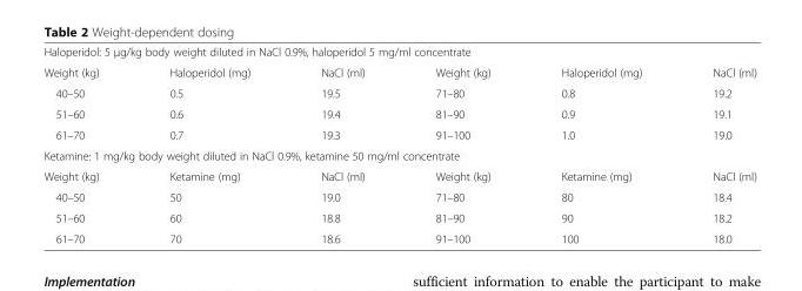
<table><tbody><tr><td colspan="6">Haloperidol: 5 μg/kg body weight diluted in NaCl 0.9%, haloperidol 5 mg/ml concentrate</td></tr><tr><td>Weight (kg)</td><td>Haloperidol (mg)</td><td>NaCl (ml)</td><td>Weight (kg)</td><td>Haloperidol (mg)</td><td>NaCl (ml)</td></tr><tr><td>40–50</td><td>0.5</td><td>19.5</td><td>71–80</td><td>0.8</td><td>19.2</td></tr><tr><td>51–60</td><td>0.6</td><td>19.4</td><td>81–90</td><td>0.9</td><td>19.1</td></tr><tr><td>61–70</td><td>0.7</td><td>19.3</td><td>91–100</td><td>1.0</td><td>19.0</td></tr><tr><td colspan="6">Ketamine: 1 mg/kg body weight diluted in NaCl 0.9%, ketamine 50 mg/ml concentrate</td></tr><tr><td>Weight (kg)</td><td>Ketamine (mg)</td><td>NaCl (ml)</td><td>Weight (kg)</td><td>Ketamine (mg)</td><td>NaCl (ml)</td></tr><tr><td>40–50</td><td>50</td><td>19.0</td><td>71–80</td><td>80</td><td>18.4</td></tr><tr><td>51–60</td><td>60</td><td>18.8</td><td>81–90</td><td>90</td><td>18.2</td></tr><tr><td>61–70</td><td>70</td><td>18.6</td><td>91–100</td><td>100</td><td>18.0</td></tr></tbody></table>